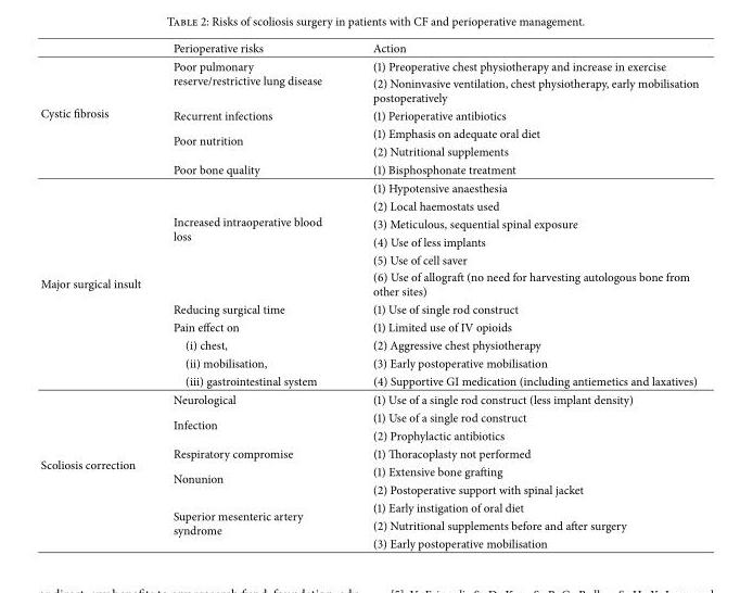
<table><thead><tr><td></td><td>Perioperative risks</td><td>Action</td></tr></thead><tbody><tr><td rowspan="6">Cystic fibrosis</td><td rowspan="2">Poor pulmonary reserve/restrictive lung disease</td><td>(1) Preoperative chest physiotherapy and increase in exercise</td></tr><tr><td>(2) Noninvasive ventilation, chest physiotherapy, early mobilisation postoperatively</td></tr><tr><td>Recurrent infections</td><td>(1) Perioperative antibiotics</td></tr><tr><td rowspan="2">Poor nutrition</td><td>(1) Emphasis on adequate oral diet</td></tr><tr><td>(2) Nutritional supplements</td></tr><tr><td>Poor bone quality</td><td>(1) Bisphosphonate treatment</td></tr><tr><td rowspan="11">Major surgical insult</td><td rowspan="6">Increased intraoperative blood loss</td><td>(1) Hypotensive anaesthesia</td></tr><tr><td>(2) Local haemostats used</td></tr><tr><td>(3) Meticulous, sequential spinal exposure</td></tr><tr><td>(4) Use of less implants</td></tr><tr><td>(5) Use of cell saver</td></tr><tr><td>(6) Use of allograft (no need for harvesting autologous bone from other sites)</td></tr><tr><td>Reducing surgical time</td><td>(1) Use of single rod construct</td></tr><tr><td>Pain effect on</td><td>(1) Limited use of IV opioids</td></tr><tr><td>(i) chest,</td><td>(2) Aggressive chest physiotherapy</td></tr><tr><td>(ii) mobilisation,</td><td>(3) Early postoperative mobilisation</td></tr><tr><td>(iii) gastrointestinal system</td><td>(4) Supportive GI medication (including antiemetics and laxatives)</td></tr><tr><td rowspan="9">Scoliosis correction</td><td>Neurological</td><td>(1) Use of a single rod construct (less implant density)</td></tr><tr><td rowspan="2">Infection</td><td>(1) Use of a single rod construct</td></tr><tr><td>(2) Prophylactic antibiotics</td></tr><tr><td>Respiratory compromise</td><td>(1) Thoracoplasty not performed</td></tr><tr><td rowspan="2">Nonunion</td><td>(1) Extensive bone grafting</td></tr><tr><td>(2) Postoperative support with spinal jacket</td></tr><tr><td rowspan="3">Superior mesenteric artery syndrome</td><td>(1) Early instigation of oral diet</td></tr><tr><td>(2) Nutritional supplements before and after surgery</td></tr><tr><td>(3) Early postoperative mobilisation</td></tr></tbody></table>